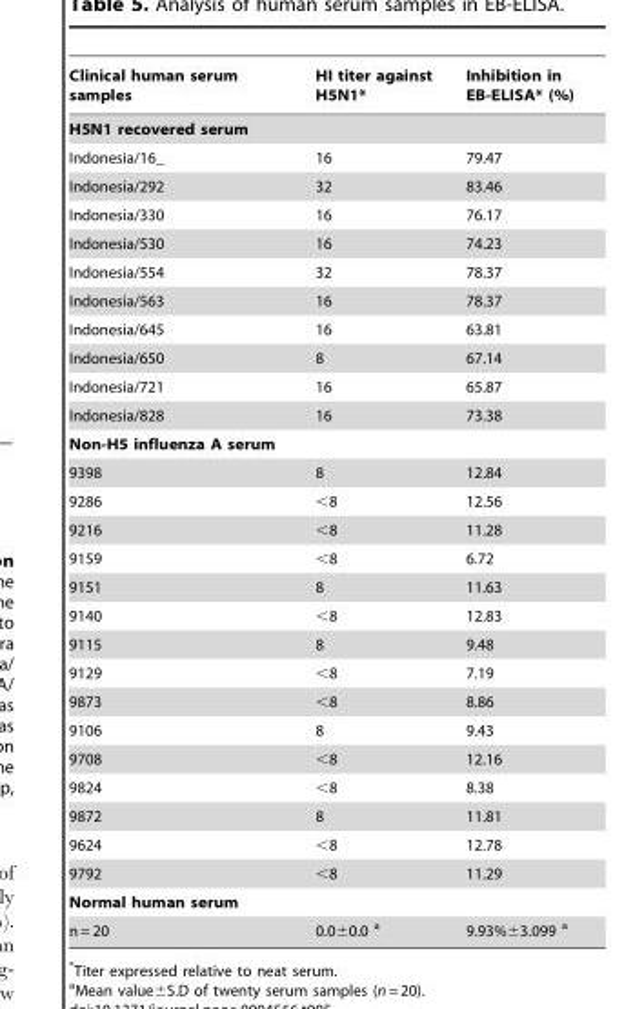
<table><thead><tr><td>Clinical human serum samples</td><td>HI titer against H5N1*</td><td>Inhibition in EB-ELISA* (%)</td></tr></thead><tbody><tr><td colspan="3">H5N1 recovered serum</td></tr><tr><td>Indonesia/16_</td><td>16</td><td>79.47</td></tr><tr><td>Indonesia/292</td><td>32</td><td>83.46</td></tr><tr><td>Indonesia/330</td><td>16</td><td>76.17</td></tr><tr><td>Indonesia/530</td><td>16</td><td>74.23</td></tr><tr><td>Indonesia/554</td><td>32</td><td>78.37</td></tr><tr><td>Indonesia/563</td><td>16</td><td>78.37</td></tr><tr><td>Indonesia/645</td><td>16</td><td>63.81</td></tr><tr><td>Indonesia/650</td><td>8</td><td>67.14</td></tr><tr><td>Indonesia/721</td><td>16</td><td>65.87</td></tr><tr><td>Indonesia/828</td><td>16</td><td>73.38</td></tr><tr><td colspan="3">Non-H5 influenza A serum</td></tr><tr><td>9398</td><td>8</td><td>12.84</td></tr><tr><td>9286</td><td>&lt;8</td><td>12.56</td></tr><tr><td>9216</td><td>&lt;8</td><td>11.28</td></tr><tr><td>9159</td><td>&lt;8</td><td>6.72</td></tr><tr><td>9151</td><td>8</td><td>11.63</td></tr><tr><td>9140</td><td>&lt;8</td><td>12.83</td></tr><tr><td>9115</td><td>8</td><td>9.48</td></tr><tr><td>9129</td><td>&lt;8</td><td>7.19</td></tr><tr><td>9873</td><td>&lt;8</td><td>8.86</td></tr><tr><td>9106</td><td>8</td><td>9.43</td></tr><tr><td>9708</td><td>&lt;8</td><td>12.16</td></tr><tr><td>9824</td><td>&lt;8</td><td>8.38</td></tr><tr><td>9872</td><td>8</td><td>11.81</td></tr><tr><td>9624</td><td>&lt;8</td><td>12.78</td></tr><tr><td>9792</td><td>&lt;8</td><td>11.29</td></tr><tr><td colspan="3">Normal human serum</td></tr><tr><td>n = 20</td><td>0.0±0.0 a</td><td>9.93%±3.099 a</td></tr></tbody></table>